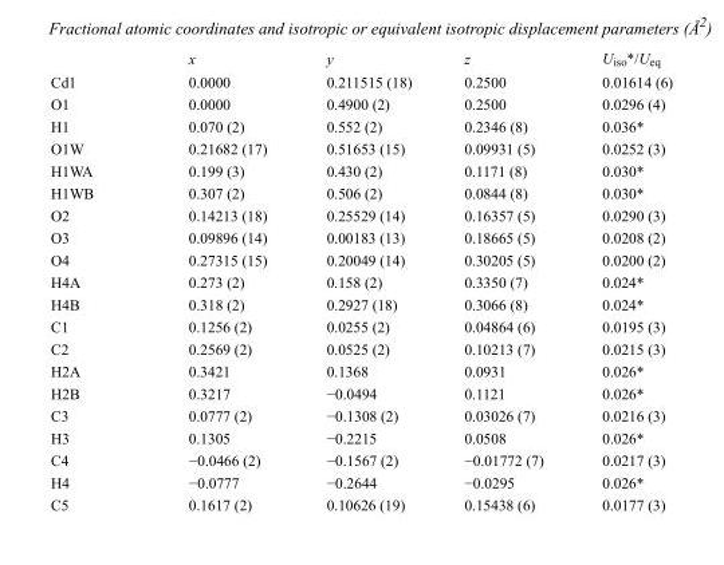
<table><thead><tr><td></td><td>x</td><td>y</td><td>z</td><td>U<sub>iso</sub>*/U<sub>eq</sub></td></tr></thead><tbody><tr><td>Cd1</td><td>0.0000</td><td>0.211515 (18)</td><td>0.2500</td><td>0.01614 (6)</td></tr><tr><td>O1</td><td>0.0000</td><td>0.4900 (2)</td><td>0.2500</td><td>0.0296 (4)</td></tr><tr><td>H1</td><td>0.070 (2)</td><td>0.552 (2)</td><td>0.2346 (8)</td><td>0.036*</td></tr><tr><td>O1W</td><td>0.21682 (17)</td><td>0.51653 (15)</td><td>0.09931 (5)</td><td>0.0252 (3)</td></tr><tr><td>H1WA</td><td>0.199 (3)</td><td>0.430 (2)</td><td>0.1171 (8)</td><td>0.030*</td></tr><tr><td>H1WB</td><td>0.307 (2)</td><td>0.506 (2)</td><td>0.0844 (8)</td><td>0.030*</td></tr><tr><td>O2</td><td>0.14213 (18)</td><td>0.25529 (14)</td><td>0.16357 (5)</td><td>0.0290 (3)</td></tr><tr><td>O3</td><td>0.09896 (14)</td><td>0.00183 (13)</td><td>0.18665 (5)</td><td>0.0208 (2)</td></tr><tr><td>O4</td><td>0.27315 (15)</td><td>0.20049 (14)</td><td>0.30205 (5)</td><td>0.0200 (2)</td></tr><tr><td>H4A</td><td>0.273 (2)</td><td>0.158 (2)</td><td>0.3350 (7)</td><td>0.024*</td></tr><tr><td>H4B</td><td>0.318 (2)</td><td>0.2927 (18)</td><td>0.3066 (8)</td><td>0.024*</td></tr><tr><td>C1</td><td>0.1256 (2)</td><td>0.0255 (2)</td><td>0.04864 (6)</td><td>0.0195 (3)</td></tr><tr><td>C2</td><td>0.2569 (2)</td><td>0.0525 (2)</td><td>0.10213 (7)</td><td>0.0215 (3)</td></tr><tr><td>H2A</td><td>0.3421</td><td>0.1368</td><td>0.0931</td><td>0.026*</td></tr><tr><td>H2B</td><td>0.3217</td><td>−0.0494</td><td>0.1121</td><td>0.026*</td></tr><tr><td>C3</td><td>0.0777 (2)</td><td>−0.1308 (2)</td><td>0.03026 (7)</td><td>0.0216 (3)</td></tr><tr><td>H3</td><td>0.1305</td><td>−0.2215</td><td>0.0508</td><td>0.026*</td></tr><tr><td>C4</td><td>−0.0466 (2)</td><td>−0.1567 (2)</td><td>−0.01772 (7)</td><td>0.0217 (3)</td></tr><tr><td>H4</td><td>−0.0777</td><td>−0.2644</td><td>−0.0295</td><td>0.026*</td></tr><tr><td>C5</td><td>0.1617 (2)</td><td>0.10626 (19)</td><td>0.15438 (6)</td><td>0.0177 (3)</td></tr></tbody></table>